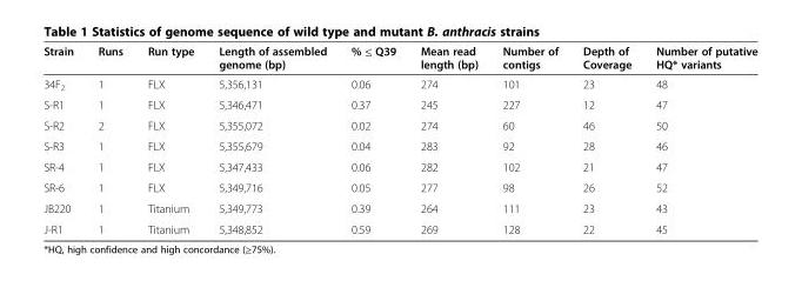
<table><thead><tr><td>Strain</td><td>Runs</td><td>Run type</td><td>Length of assembled genome (bp)</td><td>% ≤ Q39</td><td>Mean read length (bp)</td><td>Number of contigs</td><td>Depth of Coverage</td><td>Number of putative HQ* variants</td></tr></thead><tbody><tr><td>34F<sub>2</sub></td><td>1</td><td>FLX</td><td>5,356,131</td><td>0.06</td><td>274</td><td>101</td><td>23</td><td>48</td></tr><tr><td>S-R1</td><td>1</td><td>FLX</td><td>5,346,471</td><td>0.37</td><td>245</td><td>227</td><td>12</td><td>47</td></tr><tr><td>S-R2</td><td>2</td><td>FLX</td><td>5,355,072</td><td>0.02</td><td>274</td><td>60</td><td>46</td><td>50</td></tr><tr><td>S-R3</td><td>1</td><td>FLX</td><td>5,355,679</td><td>0.04</td><td>283</td><td>92</td><td>28</td><td>46</td></tr><tr><td>SR-4</td><td>1</td><td>FLX</td><td>5,347,433</td><td>0.06</td><td>282</td><td>102</td><td>21</td><td>47</td></tr><tr><td>SR-6</td><td>1</td><td>FLX</td><td>5,349,716</td><td>0.05</td><td>277</td><td>98</td><td>26</td><td>52</td></tr><tr><td>JB220</td><td>1</td><td>Titanium</td><td>5,349,773</td><td>0.39</td><td>264</td><td>111</td><td>23</td><td>43</td></tr><tr><td>J-R1</td><td>1</td><td>Titanium</td><td>5,348,852</td><td>0.59</td><td>269</td><td>128</td><td>22</td><td>45</td></tr></tbody></table>